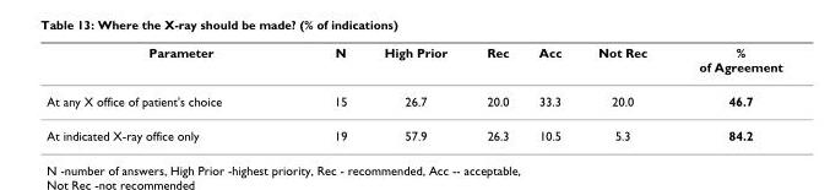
<table><thead><tr><td>Parameter</td><td>N</td><td>High Prior</td><td>Rec</td><td>Acc</td><td>Not Rec</td><td>% of Agreement</td></tr></thead><tbody><tr><td>At any X office of patient&#x27;s choice</td><td>15</td><td>26.7</td><td>20.0</td><td>33.3</td><td>20.0</td><td>46.7</td></tr><tr><td>At indicated X-ray office only</td><td>19</td><td>57.9</td><td>26.3</td><td>10.5</td><td>5.3</td><td>84.2</td></tr></tbody></table>